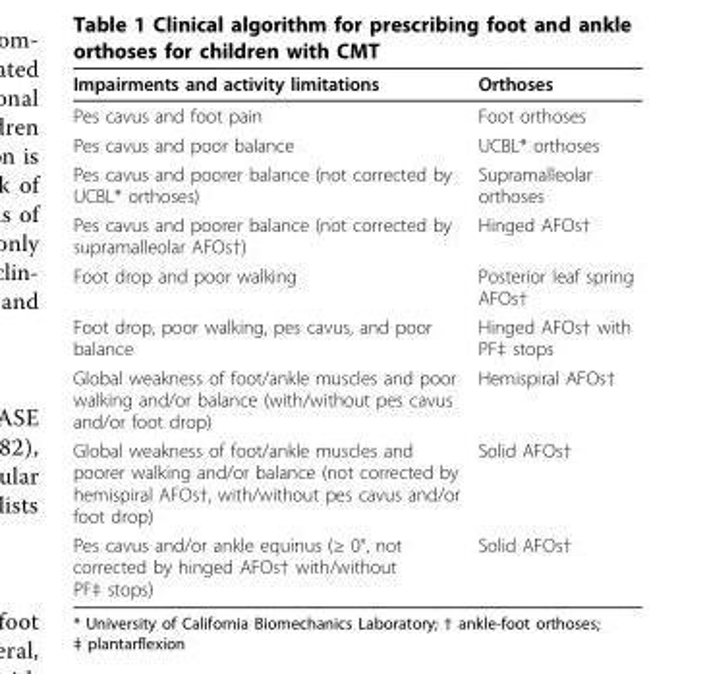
<table><thead><tr><td>Impairments and activity limitations</td><td>Orthoses</td></tr></thead><tbody><tr><td>Pes cavus and foot pain</td><td>Foot orthoses</td></tr><tr><td>Pes cavus and poor balance</td><td>UCBL* orthoses</td></tr><tr><td>Pes cavus and poorer balance (not corrected by UCBL* orthoses)</td><td>Supramalleolar orthoses</td></tr><tr><td>Pes cavus and poorer balance (not corrected by supramalleolar AFOs†)</td><td>Hinged AFOs†</td></tr><tr><td>Foot drop and poor walking</td><td>Posterior leaf spring AFOs†</td></tr><tr><td>Foot drop, poor walking, pes cavus, and poor balance</td><td>Hinged AFOs† with PF‡ stops</td></tr><tr><td>Global weakness of foot/ankle muscles and poor walking and/or balance (with/without pes cavus and/or foot drop)</td><td>Hemispiral AFOs†</td></tr><tr><td>Global weakness of foot/ankle muscles and poorer walking and/or balance (not corrected by hemispiral AFOs†, with/without pes cavus and/or foot drop)</td><td>Solid AFOs†</td></tr><tr><td>Pes cavus and/or ankle equinus (≥ 0°, not corrected by hinged AFOs† with/without PF‡ stops)</td><td>Solid AFOs†</td></tr></tbody></table>